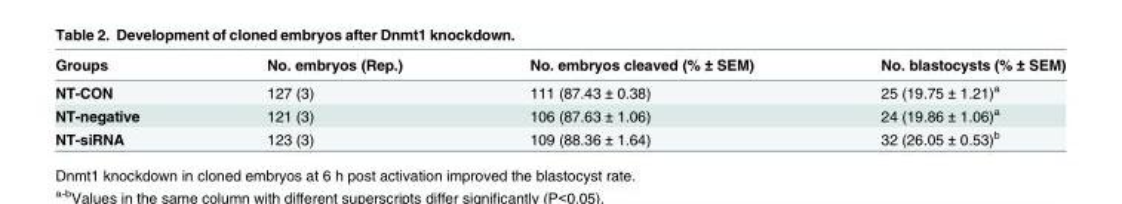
<table><thead><tr><td>Groups</td><td>No. embryos (Rep.)</td><td>No. embryos cleaved (% ± SEM)</td><td>No. blastocysts (% ± SEM)</td></tr></thead><tbody><tr><td>NT-CON</td><td>127 (3)</td><td>111 (87.43 ± 0.38)</td><td>25 (19.75 ± 1.21)<sup>a</sup></td></tr><tr><td>NT-negative</td><td>121 (3)</td><td>106 (87.63 ± 1.06)</td><td>24 (19.86 ± 1.06)<sup>a</sup></td></tr><tr><td>NT-siRNA</td><td>123 (3)</td><td>109 (88.36 ± 1.64)</td><td>32 (26.05 ± 0.53)<sup>b</sup></td></tr></tbody></table>